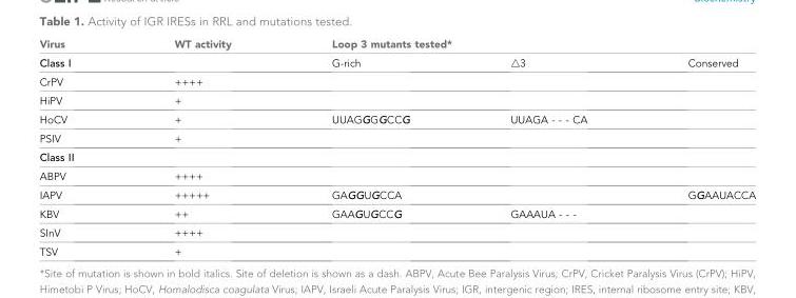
<table><thead><tr><td rowspan="2">Virus Class I</td><td rowspan="2">WT activity</td><td colspan="3">Loop 3 mutants tested*</td></tr><tr><td>G-rich</td><td>△3</td><td>Conserved</td></tr></thead><tbody><tr><td>CrPV</td><td>++++</td><td></td><td></td><td></td></tr><tr><td>HiPV</td><td>+</td><td></td><td></td><td></td></tr><tr><td>HoCV</td><td>+</td><td>UUAGGGGCCG</td><td>UUAGA - - - CA</td><td></td></tr><tr><td>PSIV</td><td>+</td><td></td><td></td><td></td></tr><tr><td colspan="5">Class II</td></tr><tr><td>ABPV</td><td>++++</td><td></td><td></td><td></td></tr><tr><td>IAPV</td><td>+++++</td><td>GAGGUGCCA</td><td></td><td>GGAAUACCA</td></tr><tr><td>KBV</td><td>++</td><td>GAAGUGCCG</td><td>GAAAUA - - -</td><td></td></tr><tr><td>SInV</td><td>++++</td><td></td><td></td><td></td></tr><tr><td>TSV</td><td>+</td><td></td><td></td><td></td></tr></tbody></table>